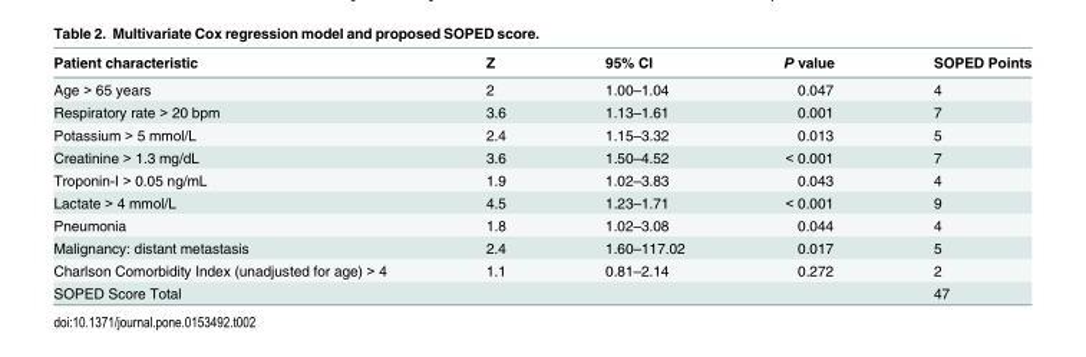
<table><thead><tr><td>Patient characteristic</td><td>Z</td><td>95% CI</td><td>P value</td><td>SOPED Points</td></tr></thead><tbody><tr><td>Age &gt; 65 years</td><td>2</td><td>1.00–1.04</td><td>0.047</td><td>4</td></tr><tr><td>Respiratory rate &gt; 20 bpm</td><td>3.6</td><td>1.13–1.61</td><td>0.001</td><td>7</td></tr><tr><td>Potassium &gt; 5 mmol/L</td><td>2.4</td><td>1.15–3.32</td><td>0.013</td><td>5</td></tr><tr><td>Creatinine &gt; 1.3 mg/dL</td><td>3.6</td><td>1.50–4.52</td><td>&lt; 0.001</td><td>7</td></tr><tr><td>Troponin-I &gt; 0.05 ng/mL</td><td>1.9</td><td>1.02–3.83</td><td>0.043</td><td>4</td></tr><tr><td>Lactate &gt; 4 mmol/L</td><td>4.5</td><td>1.23–1.71</td><td>&lt; 0.001</td><td>9</td></tr><tr><td>Pneumonia</td><td>1.8</td><td>1.02–3.08</td><td>0.044</td><td>4</td></tr><tr><td>Malignancy: distant metastasis</td><td>2.4</td><td>1.60–117.02</td><td>0.017</td><td>5</td></tr><tr><td>Charlson Comorbidity Index (unadjusted for age) &gt; 4</td><td>1.1</td><td>0.81–2.14</td><td>0.272</td><td>2</td></tr><tr><td>SOPED Score Total</td><td></td><td></td><td></td><td>47</td></tr></tbody></table>